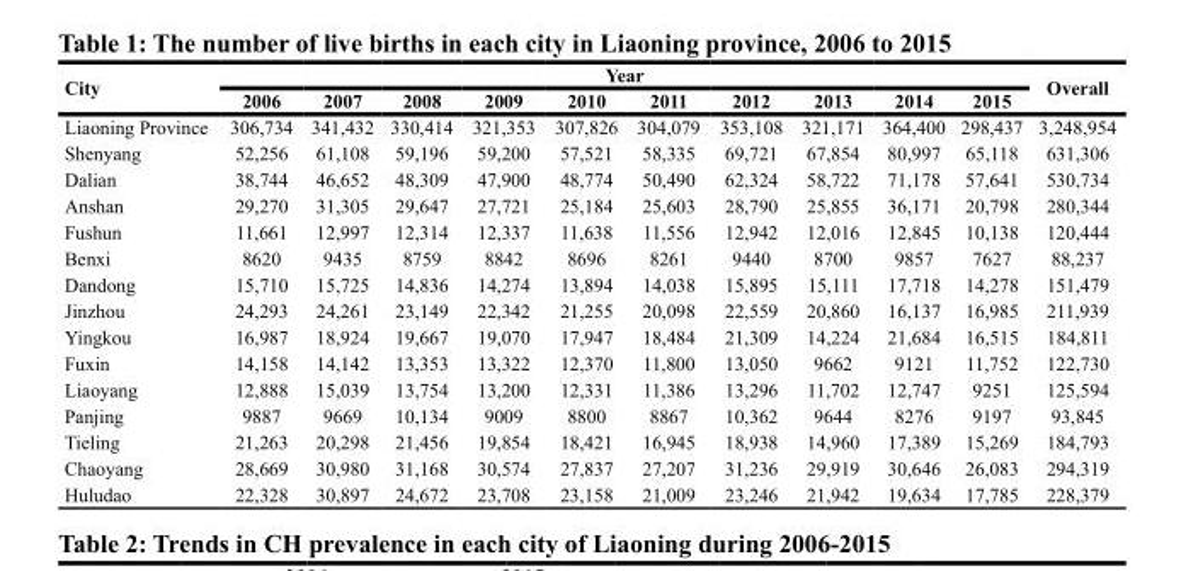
<table><thead><tr><td rowspan="2">City</td><td colspan="10">Year</td><td rowspan="2">Overall</td></tr><tr><td>2006</td><td>2007</td><td>2008</td><td>2009</td><td>2010</td><td>2011</td><td>2012</td><td>2013</td><td>2014</td><td>2015</td></tr></thead><tbody><tr><td>Liaoning Province</td><td>306,734</td><td>341,432</td><td>330,414</td><td>321,353</td><td>307,826</td><td>304,079</td><td>353,108</td><td>321,171</td><td>364,400</td><td>298,437</td><td>3,248,954</td></tr><tr><td>Shenyang</td><td>52,256</td><td>61,108</td><td>59,196</td><td>59,200</td><td>57,521</td><td>58,335</td><td>69,721</td><td>67,854</td><td>80,997</td><td>65,118</td><td>631,306</td></tr><tr><td>Dalian</td><td>38,744</td><td>46,652</td><td>48,309</td><td>47,900</td><td>48,774</td><td>50,490</td><td>62,324</td><td>58,722</td><td>71,178</td><td>57,641</td><td>530,734</td></tr><tr><td>Anshan</td><td>29,270</td><td>31,305</td><td>29,647</td><td>27,721</td><td>25,184</td><td>25,603</td><td>28,790</td><td>25,855</td><td>36,171</td><td>20,798</td><td>280,344</td></tr><tr><td>Fushun</td><td>11,661</td><td>12,997</td><td>12,314</td><td>12,337</td><td>11,638</td><td>11,556</td><td>12,942</td><td>12,016</td><td>12,845</td><td>10,138</td><td>120,444</td></tr><tr><td>Benxi</td><td>8620</td><td>9435</td><td>8759</td><td>8842</td><td>8696</td><td>8261</td><td>9440</td><td>8700</td><td>9857</td><td>7627</td><td>88,237</td></tr><tr><td>Dandong</td><td>15,710</td><td>15,725</td><td>14,836</td><td>14,274</td><td>13,894</td><td>14,038</td><td>15,895</td><td>15,111</td><td>17,718</td><td>14,278</td><td>151,479</td></tr><tr><td>Jinzhou</td><td>24,293</td><td>24,261</td><td>23,149</td><td>22,342</td><td>21,255</td><td>20,098</td><td>22,559</td><td>20,860</td><td>16,137</td><td>16,985</td><td>211,939</td></tr><tr><td>Yingkou</td><td>16,987</td><td>18,924</td><td>19,667</td><td>19,070</td><td>17,947</td><td>18,484</td><td>21,309</td><td>14,224</td><td>21,684</td><td>16,515</td><td>184,811</td></tr><tr><td>Fuxin</td><td>14,158</td><td>14,142</td><td>13,353</td><td>13,322</td><td>12,370</td><td>11,800</td><td>13,050</td><td>9662</td><td>9121</td><td>11,752</td><td>122,730</td></tr><tr><td>Liaoyang</td><td>12,888</td><td>15,039</td><td>13,754</td><td>13,200</td><td>12,331</td><td>11,386</td><td>13,296</td><td>11,702</td><td>12,747</td><td>9251</td><td>125,594</td></tr><tr><td>Panjing</td><td>9887</td><td>9669</td><td>10,134</td><td>9009</td><td>8800</td><td>8867</td><td>10,362</td><td>9644</td><td>8276</td><td>9197</td><td>93,845</td></tr><tr><td>Tieling</td><td>21,263</td><td>20,298</td><td>21,456</td><td>19,854</td><td>18,421</td><td>16,945</td><td>18,938</td><td>14,960</td><td>17,389</td><td>15,269</td><td>184,793</td></tr><tr><td>Chaoyang</td><td>28,669</td><td>30,980</td><td>31,168</td><td>30,574</td><td>27,837</td><td>27,207</td><td>31,236</td><td>29,919</td><td>30,646</td><td>26,083</td><td>294,319</td></tr><tr><td>Huludao</td><td>22,328</td><td>30,897</td><td>24,672</td><td>23,708</td><td>23,158</td><td>21,009</td><td>23,246</td><td>21,942</td><td>19,634</td><td>17,785</td><td>228,379</td></tr></tbody></table>